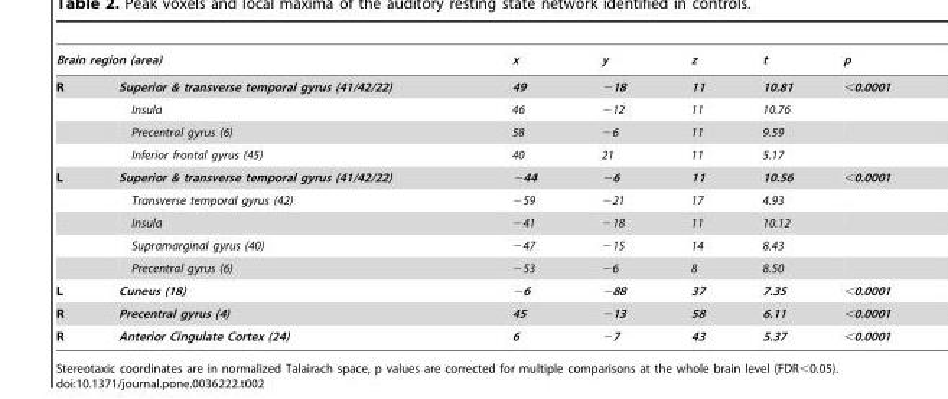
<table><thead><tr><td colspan="2">Brain region (area)</td><td rowspan="2">x 49</td><td rowspan="2">y −18</td><td rowspan="2">z 11</td><td rowspan="2">t 10.81</td><td rowspan="2">p &lt;0.0001</td></tr><tr><td>R</td><td>Superior &amp; transverse temporal gyrus (41/42/22)</td></tr></thead><tbody><tr><td></td><td>Insula</td><td>46</td><td>−12</td><td>11</td><td>10.76</td><td></td></tr><tr><td></td><td>Precentral gyrus (6)</td><td>58</td><td>−6</td><td>11</td><td>9.59</td><td></td></tr><tr><td></td><td>Inferior frontal gyrus (45)</td><td>40</td><td>21</td><td>11</td><td>5.17</td><td></td></tr><tr><td rowspan="5">L</td><td>Superior &amp; transverse temporal gyrus (41/42/22)</td><td>−44</td><td>−6</td><td>11</td><td>10.56</td><td>&lt;0.0001</td></tr><tr><td>Transverse temporal gyrus (42)</td><td>−59</td><td>−21</td><td>17</td><td>4.93</td><td></td></tr><tr><td>Insula</td><td>−41</td><td>−18</td><td>11</td><td>10.12</td><td></td></tr><tr><td>Supramarginal gyrus (40)</td><td>−47</td><td>−15</td><td>14</td><td>8.43</td><td></td></tr><tr><td>Precentral gyrus (6)</td><td>−53</td><td>−6</td><td>8</td><td>8.50</td><td></td></tr><tr><td>L</td><td>Cuneus (18)</td><td>−6</td><td>−88</td><td>37</td><td>7.35</td><td>&lt;0.0001</td></tr><tr><td>R</td><td>Precentral gyrus (4)</td><td>45</td><td>−13</td><td>58</td><td>6.11</td><td>&lt;0.0001</td></tr><tr><td>R</td><td>Anterior Cingulate Cortex (24)</td><td>6</td><td>−7</td><td>43</td><td>5.37</td><td>&lt;0.0001</td></tr></tbody></table>